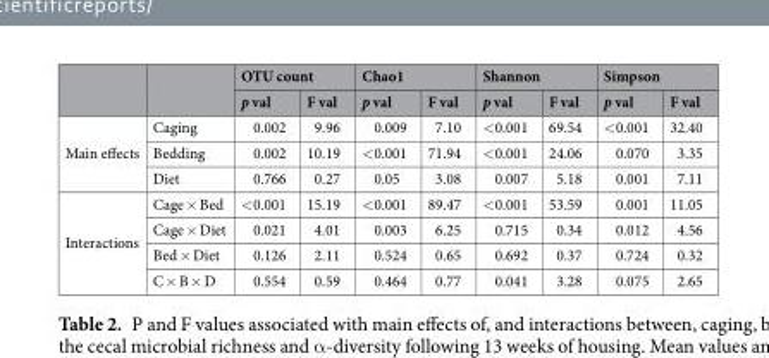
<table><thead><tr><td rowspan="2"></td><td rowspan="2"></td><td colspan="2">OTU count</td><td colspan="2">Chao1</td><td colspan="2">Shannon</td><td colspan="2">Simpson</td></tr><tr><td>p val</td><td>F val</td><td>p val</td><td>F val</td><td>p val</td><td>F val</td><td>p val</td><td>F val</td></tr></thead><tbody><tr><td rowspan="3">Main effects</td><td>Caging</td><td>0.002</td><td>9.96</td><td>0.009</td><td>7.10</td><td>&lt;0.001</td><td>69.54</td><td>&lt;0.001</td><td>32.40</td></tr><tr><td>Bedding</td><td>0.002</td><td>10.19</td><td>&lt;0.001</td><td>71.94</td><td>&lt;0.001</td><td>24.06</td><td>0.070</td><td>3.35</td></tr><tr><td>Diet</td><td>0.766</td><td>0.27</td><td>0.05</td><td>3.08</td><td>0.007</td><td>5.18</td><td>0.001</td><td>7.11</td></tr><tr><td rowspan="4">Interactions</td><td>Cage × Bed</td><td>&lt;0.001</td><td>15.19</td><td>&lt;0.001</td><td>89.47</td><td>&lt;0.001</td><td>53.59</td><td>0.001</td><td>11.05</td></tr><tr><td>Cage × Diet</td><td>0.021</td><td>4.01</td><td>0.003</td><td>6.25</td><td>0.715</td><td>0.34</td><td>0.012</td><td>4.56</td></tr><tr><td>Bed × Diet</td><td>0.126</td><td>2.11</td><td>0.524</td><td>0.65</td><td>0.692</td><td>0.37</td><td>0.724</td><td>0.32</td></tr><tr><td>C × B × D</td><td>0.554</td><td>0.59</td><td>0.464</td><td>0.77</td><td>0.041</td><td>3.28</td><td>0.075</td><td>2.65</td></tr></tbody></table>